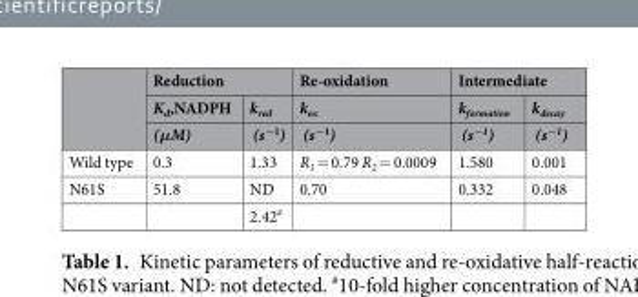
<table><thead><tr><td rowspan="3"></td><td colspan="2">Reduction</td><td rowspan="3">Re-oxidation kox (s−1)</td><td colspan="2">Intermediate</td></tr><tr><td rowspan="2">K<sub>d</sub>,NADPH (μM)</td><td rowspan="2">kred (s−1)</td><td rowspan="2">kformation (s−1)</td><td rowspan="2">kdecay (s−1)</td></tr><tr></tr></thead><tbody><tr><td>Wild type</td><td>0.3</td><td>1.33</td><td>R<sub>1</sub> = 0.79 R<sub>2</sub> = 0.0009</td><td>1.580</td><td>0.001</td></tr><tr><td rowspan="2">N61S</td><td>51.8</td><td>ND</td><td>0.70</td><td>0.332</td><td>0.048</td></tr><tr><td></td><td>2.42<sup>#</sup></td><td></td><td></td><td></td></tr></tbody></table>